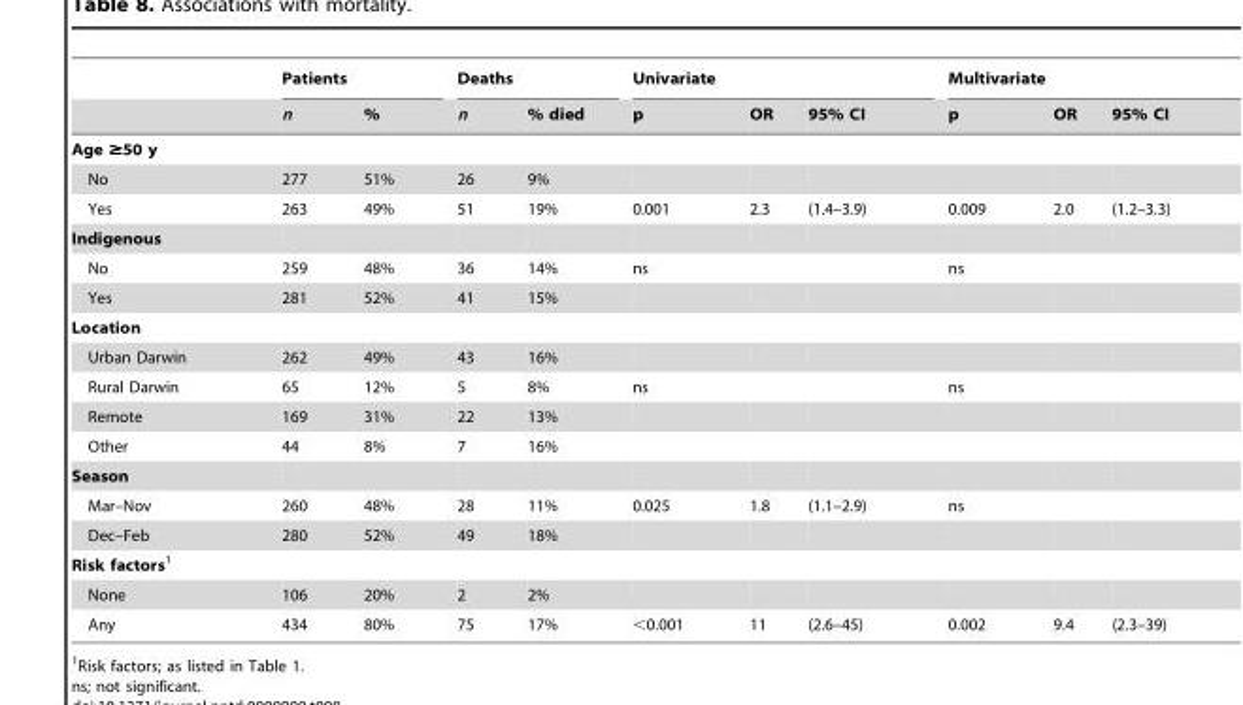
<table><thead><tr><td rowspan="2"></td><td colspan="2">Patients</td><td colspan="2">Deaths</td><td colspan="3">Univariate</td><td colspan="3">Multivariate</td></tr><tr><td>n</td><td>%</td><td>n</td><td>% died</td><td>p</td><td>OR</td><td>95% CI</td><td>p</td><td>OR</td><td>95% CI</td></tr></thead><tbody><tr><td colspan="11">Age ≥50 y</td></tr><tr><td>No</td><td>277</td><td>51%</td><td>26</td><td>9%</td><td></td><td></td><td></td><td></td><td></td><td></td></tr><tr><td>Yes</td><td>263</td><td>49%</td><td>51</td><td>19%</td><td>0.001</td><td>2.3</td><td>(1.4–3.9)</td><td>0.009</td><td>2.0</td><td>(1.2–3.3)</td></tr><tr><td colspan="11">Indigenous</td></tr><tr><td>No</td><td>259</td><td>48%</td><td>36</td><td>14%</td><td>ns</td><td></td><td></td><td>ns</td><td></td><td></td></tr><tr><td>Yes</td><td>281</td><td>52%</td><td>41</td><td>15%</td><td></td><td></td><td></td><td></td><td></td><td></td></tr><tr><td colspan="11">Location</td></tr><tr><td>Urban Darwin</td><td>262</td><td>49%</td><td>43</td><td>16%</td><td></td><td></td><td></td><td></td><td></td><td></td></tr><tr><td>Rural Darwin</td><td>65</td><td>12%</td><td>5</td><td>8%</td><td>ns</td><td></td><td></td><td>ns</td><td></td><td></td></tr><tr><td>Remote</td><td>169</td><td>31%</td><td>22</td><td>13%</td><td></td><td></td><td></td><td></td><td></td><td></td></tr><tr><td>Other</td><td>44</td><td>8%</td><td>7</td><td>16%</td><td></td><td></td><td></td><td></td><td></td><td></td></tr><tr><td colspan="11">Season</td></tr><tr><td>Mar–Nov</td><td>260</td><td>48%</td><td>28</td><td>11%</td><td>0.025</td><td>1.8</td><td>(1.1–2.9)</td><td>ns</td><td></td><td></td></tr><tr><td>Dec–Feb</td><td>280</td><td>52%</td><td>49</td><td>18%</td><td></td><td></td><td></td><td></td><td></td><td></td></tr><tr><td colspan="11">Risk factors1</td></tr><tr><td>None</td><td>106</td><td>20%</td><td>2</td><td>2%</td><td></td><td></td><td></td><td></td><td></td><td></td></tr><tr><td>Any</td><td>434</td><td>80%</td><td>75</td><td>17%</td><td>&lt;0.001</td><td>11</td><td>(2.6–45)</td><td>0.002</td><td>9.4</td><td>(2.3–39)</td></tr></tbody></table>